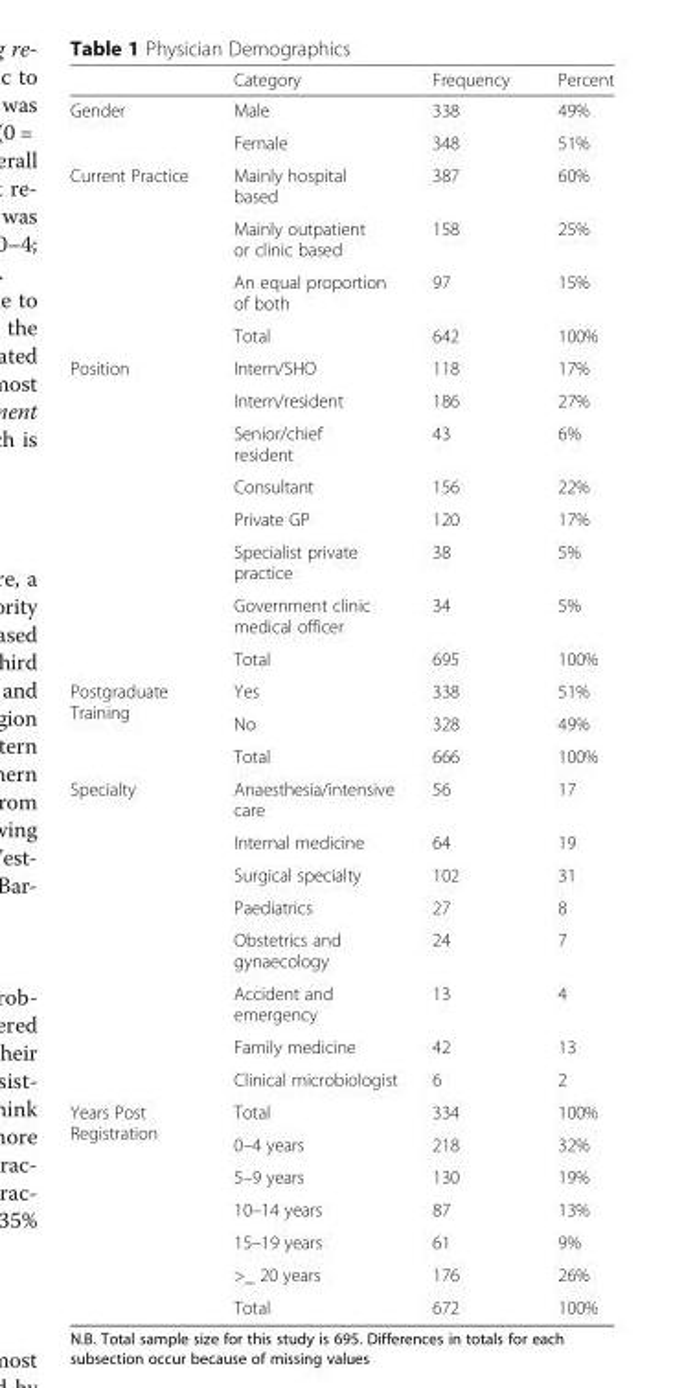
<table><thead><tr><td></td><td>Category</td><td>Frequency</td><td>Percent</td></tr></thead><tbody><tr><td rowspan="2">Gender</td><td>Male</td><td>338</td><td>49%</td></tr><tr><td>Female</td><td>348</td><td>51%</td></tr><tr><td rowspan="4">Current Practice</td><td>Mainly hospital based</td><td>387</td><td>60%</td></tr><tr><td>Mainly outpatient or clinic based</td><td>158</td><td>25%</td></tr><tr><td>An equal proportion of both</td><td>97</td><td>15%</td></tr><tr><td>Total</td><td>642</td><td>100%</td></tr><tr><td rowspan="8">Position</td><td>Intern/SHO</td><td>118</td><td>17%</td></tr><tr><td>Intern/resident</td><td>186</td><td>27%</td></tr><tr><td>Senior/chief resident</td><td>43</td><td>6%</td></tr><tr><td>Consultant</td><td>156</td><td>22%</td></tr><tr><td>Private GP</td><td>120</td><td>17%</td></tr><tr><td>Specialist private practice</td><td>38</td><td>5%</td></tr><tr><td>Government clinic medical officer</td><td>34</td><td>5%</td></tr><tr><td>Total</td><td>695</td><td>100%</td></tr><tr><td rowspan="3">Postgraduate Training</td><td>Yes</td><td>338</td><td>51%</td></tr><tr><td>No</td><td>328</td><td>49%</td></tr><tr><td>Total</td><td>666</td><td>100%</td></tr><tr><td rowspan="8">Specialty</td><td>Anaesthesia/intensive care</td><td>56</td><td>17</td></tr><tr><td>Internal medicine</td><td>64</td><td>19</td></tr><tr><td>Surgical specialty</td><td>102</td><td>31</td></tr><tr><td>Paediatrics</td><td>27</td><td>8</td></tr><tr><td>Obstetrics and gynaecology</td><td>24</td><td>7</td></tr><tr><td>Accident and emergency</td><td>13</td><td>4</td></tr><tr><td>Family medicine</td><td>42</td><td>13</td></tr><tr><td>Clinical microbiologist</td><td>6</td><td>2</td></tr><tr><td rowspan="7">Years Post Registration</td><td>Total</td><td>334</td><td>100%</td></tr><tr><td>0–4 years</td><td>218</td><td>32%</td></tr><tr><td>5–9 years</td><td>130</td><td>19%</td></tr><tr><td>10–14 years</td><td>87</td><td>13%</td></tr><tr><td>15–19 years</td><td>61</td><td>9%</td></tr><tr><td>&gt;_ 20 years</td><td>176</td><td>26%</td></tr><tr><td>Total</td><td>672</td><td>100%</td></tr></tbody></table>